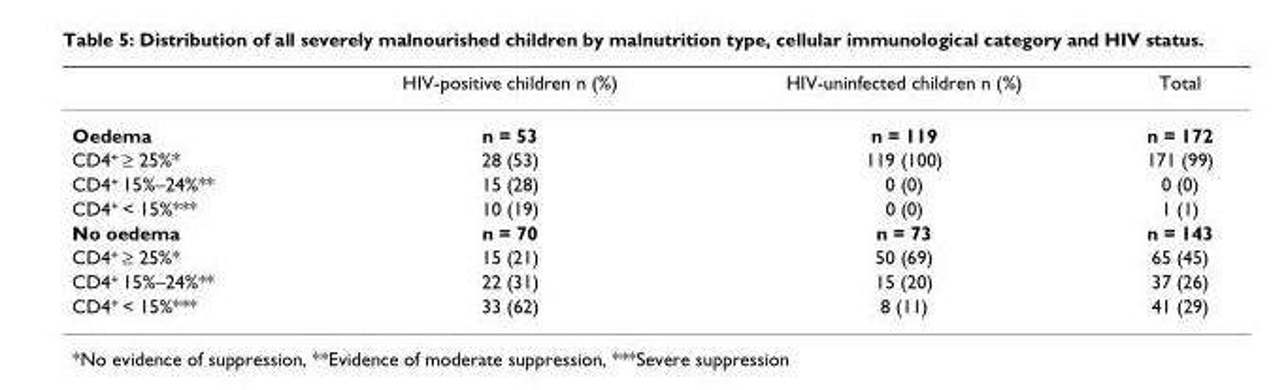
<table><thead><tr><td></td><td>HIV-positive children n (%)</td><td>HIV-uninfected children n (%)</td><td>Total</td></tr></thead><tbody><tr><td>Oedema</td><td>n = 53</td><td>n = 119</td><td>n = 172</td></tr><tr><td>CD4<sup>+</sup> ≥ 25%*</td><td>28 (53)</td><td>119 (100)</td><td>171 (99)</td></tr><tr><td>CD4<sup>+</sup> 15%–24%**</td><td>15 (28)</td><td>0 (0)</td><td>0 (0)</td></tr><tr><td>CD4<sup>+</sup> &lt; 15%***</td><td>10 (19)</td><td>0 (0)</td><td>1 (1)</td></tr><tr><td>No oedema</td><td>n = 70</td><td>n = 73</td><td>n = 143</td></tr><tr><td>CD4<sup>+</sup> ≥ 25%*</td><td>15 (21)</td><td>50 (69)</td><td>65 (45)</td></tr><tr><td>CD4<sup>+</sup> 15%–24%**</td><td>22 (31)</td><td>15 (20)</td><td>37 (26)</td></tr><tr><td>CD4<sup>+</sup> &lt; 15%***</td><td>33 (62)</td><td>8 (11)</td><td>41 (29)</td></tr></tbody></table>